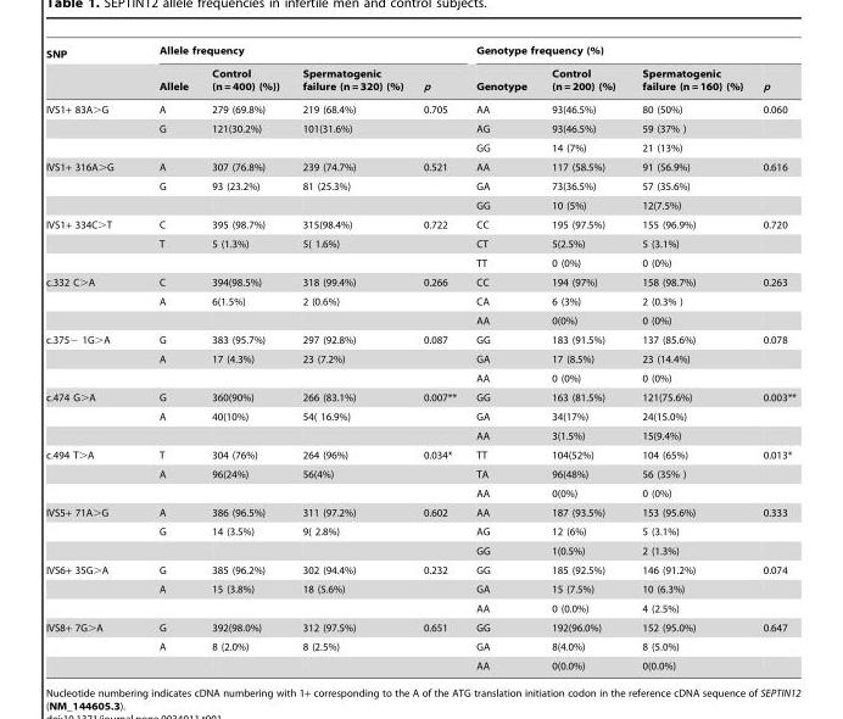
<table><thead><tr><td rowspan="2">SNP</td><td colspan="4">Allele frequency</td><td colspan="4">Genotype frequency (%)</td></tr><tr><td>Allele</td><td>Control (n = 400) (%))</td><td>Spermatogenic failure (n = 320) (%)</td><td>p</td><td>Genotype</td><td>Control (n = 200) (%)</td><td>Spermatogenic failure (n = 160) (%)</td><td>p</td></tr></thead><tbody><tr><td rowspan="3">IVS1+ 83A&gt;G</td><td>A</td><td>279 (69.8%)</td><td>219 (68.4%)</td><td>0.705</td><td>AA</td><td>93(46.5%)</td><td>80 (50%)</td><td>0.060</td></tr><tr><td>G</td><td>121(30.2%)</td><td>101(31.6%)</td><td></td><td>AG</td><td>93(46.5%)</td><td>59 (37% )</td><td></td></tr><tr><td></td><td></td><td></td><td></td><td>GG</td><td>14 (7%)</td><td>21 (13%)</td><td></td></tr><tr><td rowspan="3">IVS1+ 316A&gt;G</td><td>A</td><td>307 (76.8%)</td><td>239 (74.7%)</td><td>0.521</td><td>AA</td><td>117 (58.5%)</td><td>91 (56.9%)</td><td>0.616</td></tr><tr><td>G</td><td>93 (23.2%)</td><td>81 (25.3%)</td><td></td><td>GA</td><td>73(36.5%)</td><td>57 (35.6%)</td><td></td></tr><tr><td></td><td></td><td></td><td></td><td>GG</td><td>10 (5%)</td><td>12(7.5%)</td><td></td></tr><tr><td rowspan="3">IVS1+ 334C&gt;T</td><td>C</td><td>395 (98.7%)</td><td>315(98.4%)</td><td>0.722</td><td>CC</td><td>195 (97.5%)</td><td>155 (96.9%)</td><td>0.720</td></tr><tr><td>T</td><td>5 (1.3%)</td><td>5( 1.6%)</td><td></td><td>CT</td><td>5(2.5%)</td><td>5 (3.1%)</td><td></td></tr><tr><td></td><td></td><td></td><td></td><td>TT</td><td>0 (0%)</td><td>0 (0%)</td><td></td></tr><tr><td rowspan="3">c.332 C&gt;A</td><td>C</td><td>394(98.5%)</td><td>318 (99.4%)</td><td>0.266</td><td>CC</td><td>194 (97%)</td><td>158 (98.7%)</td><td>0.263</td></tr><tr><td>A</td><td>6(1.5%)</td><td>2 (0.6%)</td><td></td><td>CA</td><td>6 (3%)</td><td>2 (0.3% )</td><td></td></tr><tr><td></td><td></td><td></td><td></td><td>AA</td><td>0(0%)</td><td>0 (0%)</td><td></td></tr><tr><td rowspan="3">c.375− 1G&gt;A</td><td>G</td><td>383 (95.7%)</td><td>297 (92.8%)</td><td>0.087</td><td>GG</td><td>183 (91.5%)</td><td>137 (85.6%)</td><td>0.078</td></tr><tr><td>A</td><td>17 (4.3%)</td><td>23 (7.2%)</td><td></td><td>GA</td><td>17 (8.5%)</td><td>23 (14.4%)</td><td></td></tr><tr><td></td><td></td><td></td><td></td><td>AA</td><td>0 (0%)</td><td>0 (0%)</td><td></td></tr><tr><td rowspan="3">c.474 G&gt;A</td><td>G</td><td>360(90%)</td><td>266 (83.1%)</td><td>0.007**</td><td>GG</td><td>163 (81.5%)</td><td>121(75.6%)</td><td>0.003**</td></tr><tr><td>A</td><td>40(10%)</td><td>54( 16.9%)</td><td></td><td>GA</td><td>34(17%)</td><td>24(15.0%)</td><td></td></tr><tr><td></td><td></td><td></td><td></td><td>AA</td><td>3(1.5%)</td><td>15(9.4%)</td><td></td></tr><tr><td rowspan="3">c.494 T&gt;A</td><td>T</td><td>304 (76%)</td><td>264 (96%)</td><td>0.034*</td><td>TT</td><td>104(52%)</td><td>104 (65%)</td><td>0.013*</td></tr><tr><td>A</td><td>96(24%)</td><td>56(4%)</td><td></td><td>TA</td><td>96(48%)</td><td>56 (35% )</td><td></td></tr><tr><td></td><td></td><td></td><td></td><td>AA</td><td>0(0%)</td><td>0 (0%)</td><td></td></tr><tr><td rowspan="3">IVS5+ 71A&gt;G</td><td>A</td><td>386 (96.5%)</td><td>311 (97.2%)</td><td>0.602</td><td>AA</td><td>187 (93.5%)</td><td>153 (95.6%)</td><td>0.333</td></tr><tr><td>G</td><td>14 (3.5%)</td><td>9( 2.8%)</td><td></td><td>AG</td><td>12 (6%)</td><td>5 (3.1%)</td><td></td></tr><tr><td></td><td></td><td></td><td></td><td>GG</td><td>1(0.5%)</td><td>2 (1.3%)</td><td></td></tr><tr><td rowspan="3">IVS6+ 35G&gt;A</td><td>G</td><td>385 (96.2%)</td><td>302 (94.4%)</td><td>0.232</td><td>GG</td><td>185 (92.5%)</td><td>146 (91.2%)</td><td>0.074</td></tr><tr><td>A</td><td>15 (3.8%)</td><td>18 (5.6%)</td><td></td><td>GA</td><td>15 (7.5%)</td><td>10 (6.3%)</td><td></td></tr><tr><td></td><td></td><td></td><td></td><td>AA</td><td>0 (0.0%)</td><td>4 (2.5%)</td><td></td></tr><tr><td rowspan="3">IVS8+ 7G&gt;A</td><td>G</td><td>392(98.0%)</td><td>312 (97.5%)</td><td>0.651</td><td>GG</td><td>192(96.0%)</td><td>152 (95.0%)</td><td>0.647</td></tr><tr><td>A</td><td>8 (2.0%)</td><td>8 (2.5%)</td><td></td><td>GA</td><td>8(4.0%)</td><td>8 (5.0%)</td><td></td></tr><tr><td></td><td></td><td></td><td></td><td>AA</td><td>0(0.0%)</td><td>0(0.0%)</td><td></td></tr></tbody></table>